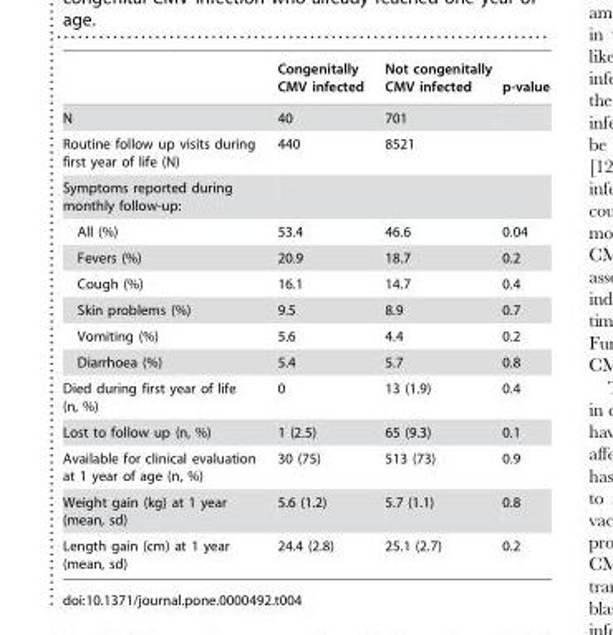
<table><thead><tr><td></td><td>Congenitally CMV infected</td><td>Not congenitally CMV infected</td><td>p-value</td></tr></thead><tbody><tr><td>N</td><td>40</td><td>701</td><td></td></tr><tr><td>Routine follow up visits during first year of life (N)</td><td>440</td><td>8521</td><td></td></tr><tr><td colspan="4">Symptoms reported during monthly follow-up:</td></tr><tr><td>All (%)</td><td>53.4</td><td>46.6</td><td>0.04</td></tr><tr><td>Fevers (%)</td><td>20.9</td><td>18.7</td><td>0.2</td></tr><tr><td>Cough (%)</td><td>16.1</td><td>14.7</td><td>0.4</td></tr><tr><td>Skin problems (%)</td><td>9.5</td><td>8.9</td><td>0.7</td></tr><tr><td>Vomiting (%)</td><td>5.6</td><td>4.4</td><td>0.2</td></tr><tr><td>Diarrhoea (%)</td><td>5.4</td><td>5.7</td><td>0.8</td></tr><tr><td>Died during first year of life (n, %)</td><td>0</td><td>13 (1.9)</td><td>0.4</td></tr><tr><td>Lost to follow up (n, %)</td><td>1 (2.5)</td><td>65 (9.3)</td><td>0.1</td></tr><tr><td>Available for clinical evaluation at 1 year of age (n, %)</td><td>30 (75)</td><td>513 (73)</td><td>0.9</td></tr><tr><td>Weight gain (kg) at 1 year (mean, sd)</td><td>5.6 (1.2)</td><td>5.7 (1.1)</td><td>0.8</td></tr><tr><td>Length gain (cm) at 1 year (mean, sd)</td><td>24.4 (2.8)</td><td>25.1 (2.7)</td><td>0.2</td></tr></tbody></table>